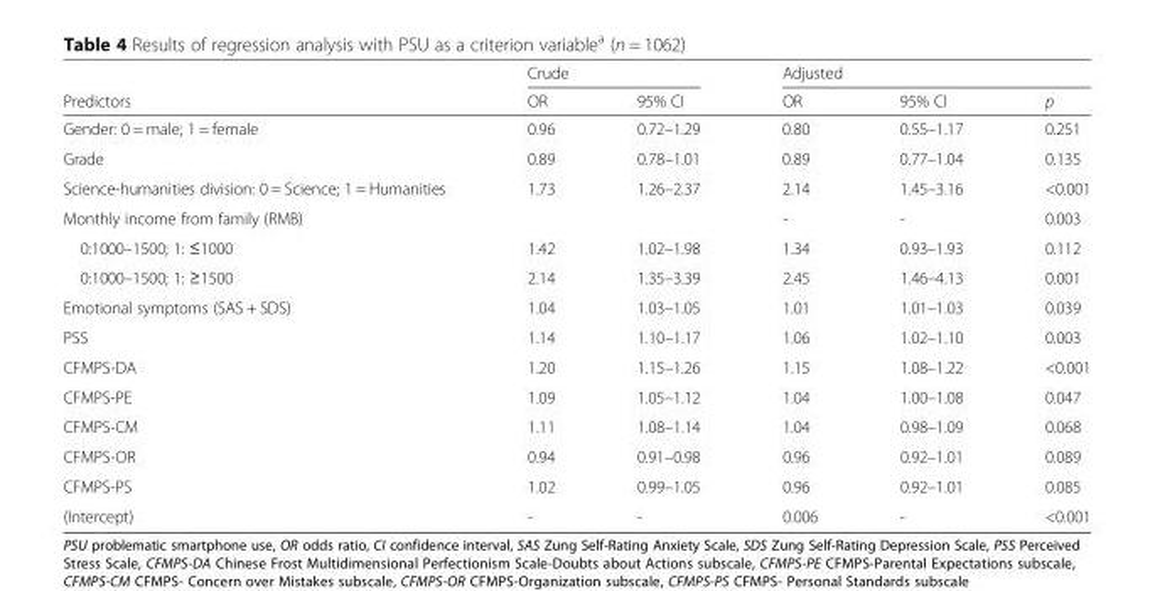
<table><thead><tr><td rowspan="2">Predictors</td><td colspan="2">Crude</td><td colspan="3">Adjusted</td></tr><tr><td>OR</td><td>95% CI</td><td>OR</td><td>95% CI</td><td>p</td></tr></thead><tbody><tr><td>Gender: 0 = male; 1 = female</td><td>0.96</td><td>0.72–1.29</td><td>0.80</td><td>0.55–1.17</td><td>0.251</td></tr><tr><td>Grade</td><td>0.89</td><td>0.78–1.01</td><td>0.89</td><td>0.77–1.04</td><td>0.135</td></tr><tr><td>Science-humanities division: 0 = Science; 1 = Humanities</td><td>1.73</td><td>1.26–2.37</td><td>2.14</td><td>1.45–3.16</td><td>&lt;0.001</td></tr><tr><td>Monthly income from family (RMB)</td><td></td><td></td><td>-</td><td>-</td><td>0.003</td></tr><tr><td>0:1000–1500; 1: ≤1000</td><td>1.42</td><td>1.02–1.98</td><td>1.34</td><td>0.93–1.93</td><td>0.112</td></tr><tr><td>0:1000–1500; 1: ≥1500</td><td>2.14</td><td>1.35–3.39</td><td>2.45</td><td>1.46–4.13</td><td>0.001</td></tr><tr><td>Emotional symptoms (SAS + SDS)</td><td>1.04</td><td>1.03–1.05</td><td>1.01</td><td>1.01–1.03</td><td>0.039</td></tr><tr><td>PSS</td><td>1.14</td><td>1.10–1.17</td><td>1.06</td><td>1.02–1.10</td><td>0.003</td></tr><tr><td>CFMPS-DA</td><td>1.20</td><td>1.15–1.26</td><td>1.15</td><td>1.08–1.22</td><td>&lt;0.001</td></tr><tr><td>CFMPS-PE</td><td>1.09</td><td>1.05–1.12</td><td>1.04</td><td>1.00–1.08</td><td>0.047</td></tr><tr><td>CFMPS-CM</td><td>1.11</td><td>1.08–1.14</td><td>1.04</td><td>0.98–1.09</td><td>0.068</td></tr><tr><td>CFMPS-OR</td><td>0.94</td><td>0.91–0.98</td><td>0.96</td><td>0.92–1.01</td><td>0.089</td></tr><tr><td>CFMPS-PS</td><td>1.02</td><td>0.99–1.05</td><td>0.96</td><td>0.92–1.01</td><td>0.085</td></tr><tr><td>(Intercept)</td><td>-</td><td>-</td><td>0.006</td><td>-</td><td>&lt;0.001</td></tr></tbody></table>